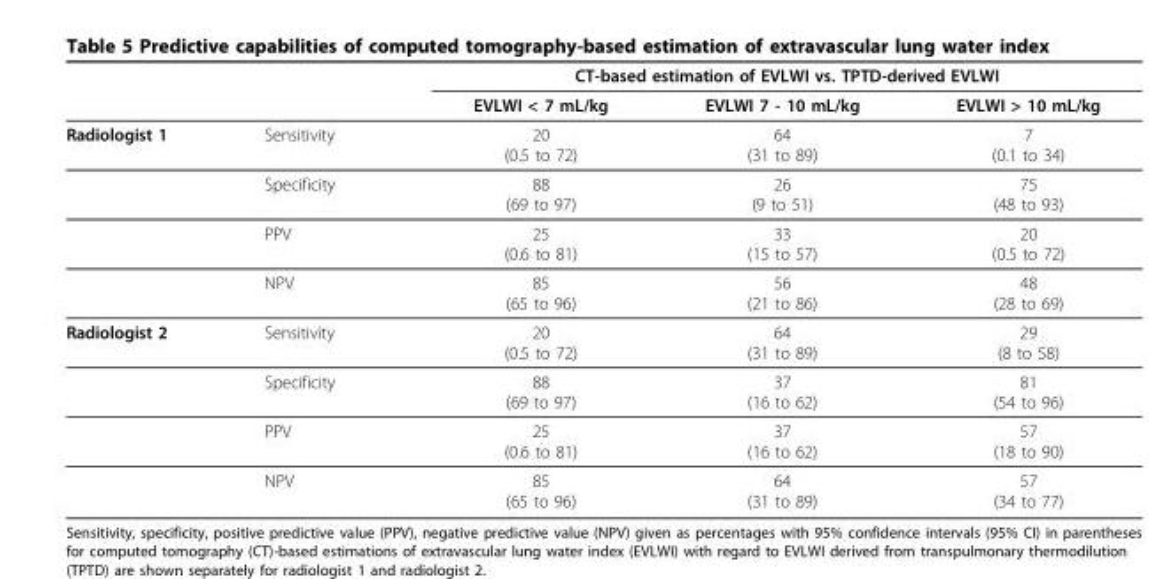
<table><thead><tr><td rowspan="2"></td><td rowspan="2"></td><td colspan="3">CT-based estimation of EVLWI vs. TPTD-derived EVLWI</td></tr><tr><td>EVLWI &lt; 7 mL/kg</td><td>EVLWI 7 - 10 mL/kg</td><td>EVLWI &gt; 10 mL/kg</td></tr></thead><tbody><tr><td rowspan="4">Radiologist 1</td><td>Sensitivity</td><td>20 (0.5 to 72)</td><td>64 (31 to 89)</td><td>7 (0.1 to 34)</td></tr><tr><td>Specificity</td><td>88 (69 to 97)</td><td>26 (9 to 51)</td><td>75 (48 to 93)</td></tr><tr><td>PPV</td><td>25 (0.6 to 81)</td><td>33 (15 to 57)</td><td>20 (0.5 to 72)</td></tr><tr><td>NPV</td><td>85 (65 to 96)</td><td>56 (21 to 86)</td><td>48 (28 to 69)</td></tr><tr><td rowspan="4">Radiologist 2</td><td>Sensitivity</td><td>20 (0.5 to 72)</td><td>64 (31 to 89)</td><td>29 (8 to 58)</td></tr><tr><td>Specificity</td><td>88 (69 to 97)</td><td>37 (16 to 62)</td><td>81 (54 to 96)</td></tr><tr><td>PPV</td><td>25 (0.6 to 81)</td><td>37 (16 to 62)</td><td>57 (18 to 90)</td></tr><tr><td>NPV</td><td>85 (65 to 96)</td><td>64 (31 to 89)</td><td>57 (34 to 77)</td></tr></tbody></table>